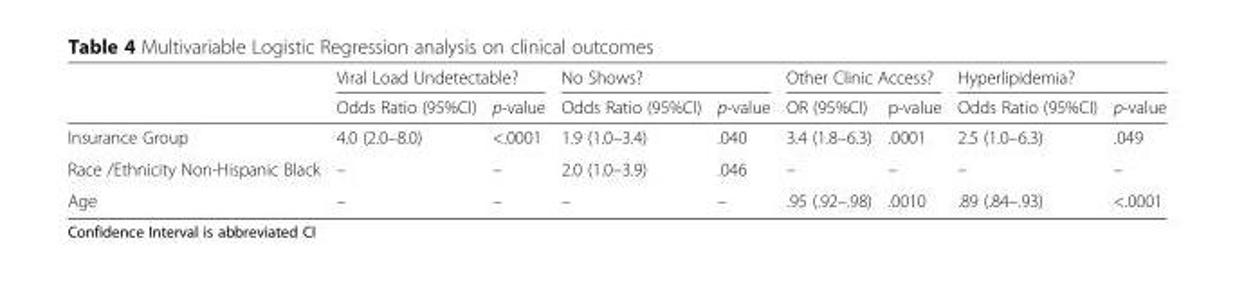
<table><thead><tr><td rowspan="2"></td><td colspan="2">Viral Load Undetectable?</td><td colspan="2">No Shows?</td><td colspan="2">Other Clinic Access?</td><td colspan="2">Hyperlipidemia?</td></tr><tr><td>Odds Ratio (95%CI)</td><td>p-value</td><td>Odds Ratio (95%CI)</td><td>p-value</td><td>OR (95%CI)</td><td>p-value</td><td>Odds Ratio (95%CI)</td><td>p-value</td></tr></thead><tbody><tr><td>Insurance Group</td><td>4.0 (2.0–8.0)</td><td>&lt;.0001</td><td>1.9 (1.0–3.4)</td><td>.040</td><td>3.4 (1.8–6.3)</td><td>.0001</td><td>2.5 (1.0–6.3)</td><td>.049</td></tr><tr><td>Race /Ethnicity Non-Hispanic Black</td><td>–</td><td>–</td><td>2.0 (1.0–3.9)</td><td>.046</td><td>–</td><td>–</td><td>–</td><td>–</td></tr><tr><td>Age</td><td>–</td><td>–</td><td>–</td><td>–</td><td>.95 (.92–.98)</td><td>.0010</td><td>.89 (.84–.93)</td><td>&lt;.0001</td></tr></tbody></table>